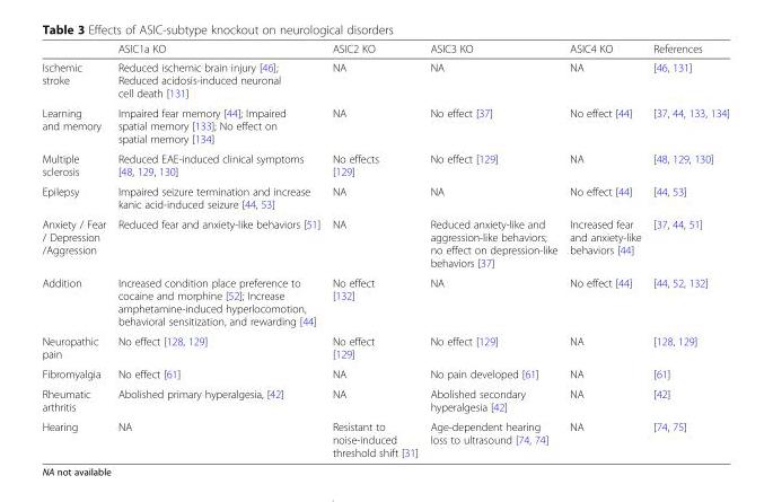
<table><thead><tr><td></td><td>ASIC1a KO</td><td>ASIC2 KO</td><td>ASIC3 KO</td><td>ASIC4 KO</td><td>References</td></tr></thead><tbody><tr><td>Ischemic stroke</td><td>Reduced ischemic brain injury [46]; Reduced acidosis-induced neuronal cell death [131]</td><td>NA</td><td>NA</td><td>NA</td><td>[46, 131]</td></tr><tr><td>Learning and memory</td><td>Impaired fear memory [44]; Impaired spatial memory [133]; No effect on spatial memory [134]</td><td>NA</td><td>No effect [37]</td><td>No effect [44]</td><td>[37, 44, 133, 134]</td></tr><tr><td>Multiple sclerosis</td><td>Reduced EAE-induced clinical symptoms [48, 129, 130]</td><td>No effects [129]</td><td>No effect [129]</td><td>NA</td><td>[48, 129, 130]</td></tr><tr><td>Epilepsy</td><td>Impaired seizure termination and increase kanic acid-induced seizure [44, 53]</td><td>NA</td><td>NA</td><td>No effect [44]</td><td>[44, 53]</td></tr><tr><td>Anxiety / Fear / Depression /Aggression</td><td>Reduced fear and anxiety-like behaviors [51]</td><td>NA</td><td>Reduced anxiety-like and aggression-like behaviors; no effect on depression-like behaviors [37]</td><td>Increased fear and anxiety-like behaviors [44]</td><td>[37, 44, 51]</td></tr><tr><td>Addition</td><td>Increased condition place preference to cocaine and morphine [52]; Increase amphetamine-induced hyperlocomotion, behavioral sensitization, and rewarding [44]</td><td>No effect [132]</td><td>NA</td><td>No effect [44]</td><td>[44, 52, 132]</td></tr><tr><td>Neuropathic pain</td><td>No effect [128, 129]</td><td>No effect [129]</td><td>No effect [129]</td><td>NA</td><td>[128, 129]</td></tr><tr><td>Fibromyalgia</td><td>No effect [61]</td><td>NA</td><td>No pain developed [61]</td><td>NA</td><td>[61]</td></tr><tr><td>Rheumatic arthritis</td><td>Abolished primary hyperalgesia, [42]</td><td>NA</td><td>Abolished secondary hyperalgesia [42]</td><td>NA</td><td>[42]</td></tr><tr><td>Hearing</td><td>NA</td><td>Resistant to noise-induced threshold shift [31]</td><td>Age-dependent hearing loss to ultrasound [74, 74]</td><td>NA</td><td>[74, 75]</td></tr></tbody></table>